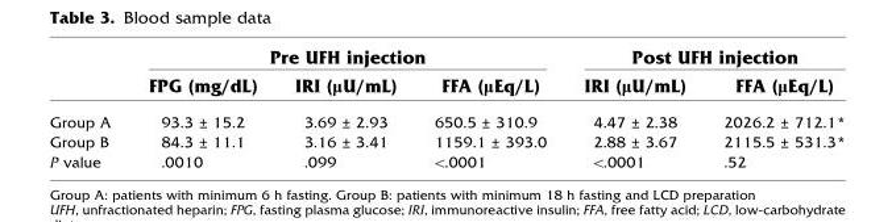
<table><thead><tr><td rowspan="2"></td><td colspan="3">Pre UFH injection</td><td colspan="2">Post UFH injection</td></tr><tr><td>FPG (mg/dL)</td><td>IRI (μU/mL)</td><td>FFA (μEq/L)</td><td>IRI (μU/mL)</td><td>FFA (μEq/L)</td></tr></thead><tbody><tr><td>Group A</td><td>93.3 ± 15.2</td><td>3.69 ± 2.93</td><td>650.5 ± 310.9</td><td>4.47 ± 2.38</td><td>2026.2 ± 712.1*</td></tr><tr><td>Group B</td><td>84.3 ± 11.1</td><td>3.16 ± 3.41</td><td>1159.1 ± 393.0</td><td>2.88 ± 3.67</td><td>2115.5 ± 531.3*</td></tr><tr><td>P value</td><td>.0010</td><td>.099</td><td>&lt;.0001</td><td>&lt;.0001</td><td>.52</td></tr></tbody></table>